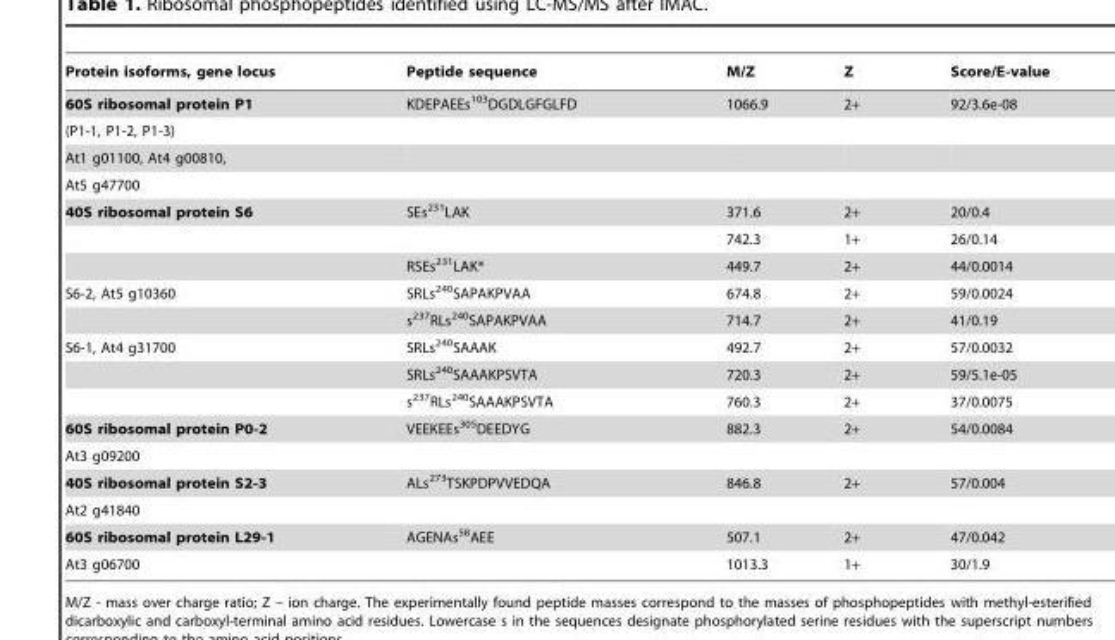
<table><thead><tr><td>Protein isoforms, gene locus</td><td>Peptide sequence</td><td>M/Z</td><td>Z</td><td>Score/E-value</td></tr></thead><tbody><tr><td>60S ribosomal protein P1</td><td>KDEPAEEs<sup>103</sup>DGDLGFGLFD</td><td>1066.9</td><td>2+</td><td>92/3.6e-08</td></tr><tr><td colspan="5">(P1-1, P1-2, P1-3)</td></tr><tr><td colspan="5">At1 g01100, At4 g00810,</td></tr><tr><td colspan="5">At5 g47700</td></tr><tr><td rowspan="3">40S ribosomal protein S6</td><td>SEs<sup>231</sup>LAK</td><td>371.6</td><td>2+</td><td>20/0.4</td></tr><tr><td></td><td>742.3</td><td>1+</td><td>26/0.14</td></tr><tr><td>RSEs<sup>231</sup>LAK*</td><td>449.7</td><td>2+</td><td>44/0.0014</td></tr><tr><td rowspan="2">S6-2, At5 g10360</td><td>SRLs<sup>240</sup>SAPAKPVAA</td><td>674.8</td><td>2+</td><td>59/0.0024</td></tr><tr><td>s<sup>237</sup>RLs<sup>240</sup>SAPAKPVAA</td><td>714.7</td><td>2+</td><td>41/0.19</td></tr><tr><td rowspan="3">S6-1, At4 g31700</td><td>SRLs<sup>240</sup>SAAAK</td><td>492.7</td><td>2+</td><td>57/0.0032</td></tr><tr><td>SRLs<sup>240</sup>SAAAKPSVTA</td><td>720.3</td><td>2+</td><td>59/5.1e-05</td></tr><tr><td>s<sup>237</sup>RLs<sup>240</sup>SAAAKPSVTA</td><td>760.3</td><td>2+</td><td>37/0.0075</td></tr><tr><td>60S ribosomal protein P0-2</td><td>VEEKEEs<sup>305</sup>DEEDYG</td><td>882.3</td><td>2+</td><td>54/0.0084</td></tr><tr><td colspan="5">At3 g09200</td></tr><tr><td>40S ribosomal protein S2-3</td><td>ALs<sup>273</sup>TSKPDPVVEDQA</td><td>846.8</td><td>2+</td><td>57/0.004</td></tr><tr><td colspan="5">At2 g41840</td></tr><tr><td>60S ribosomal protein L29-1</td><td>AGENAs<sup>58</sup>AEE</td><td>507.1</td><td>2+</td><td>47/0.042</td></tr><tr><td>At3 g06700</td><td></td><td>1013.3</td><td>1+</td><td>30/1.9</td></tr></tbody></table>